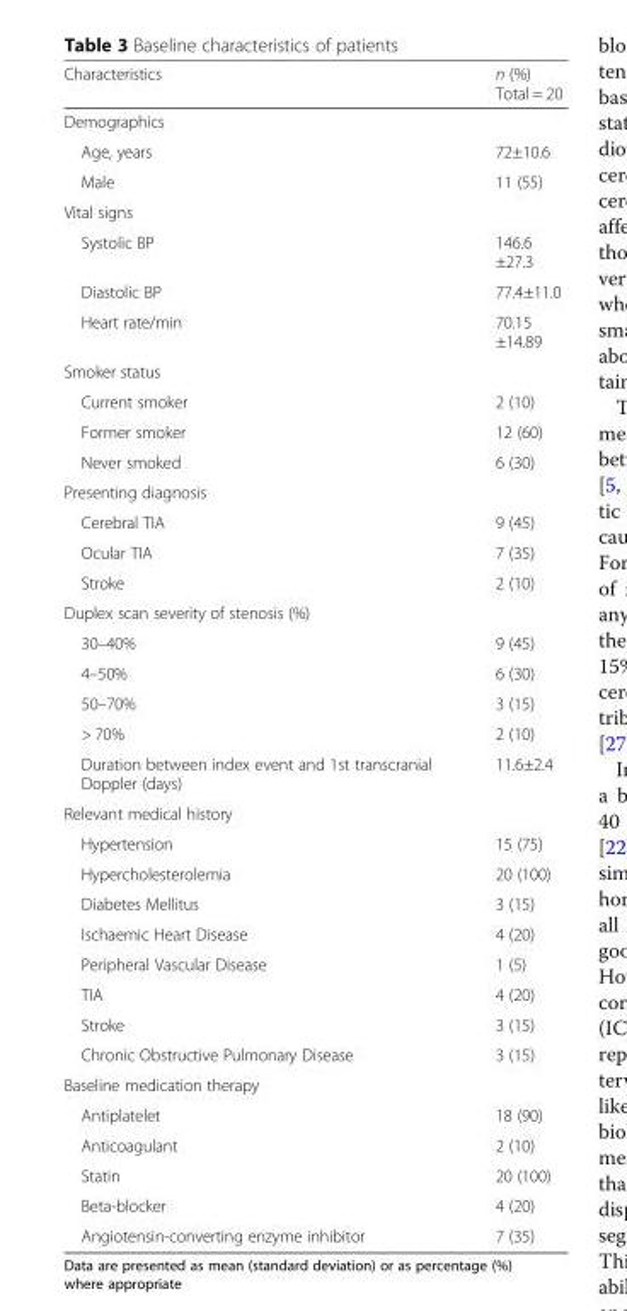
<table><thead><tr><td>Characteristics</td><td>n (%) Total = 20</td></tr></thead><tbody><tr><td colspan="2">Demographics</td></tr><tr><td>Age, years</td><td>72±10.6</td></tr><tr><td>Male</td><td>11 (55)</td></tr><tr><td colspan="2">Vital signs</td></tr><tr><td>Systolic BP</td><td>146.6 ±27.3</td></tr><tr><td>Diastolic BP</td><td>77.4±11.0</td></tr><tr><td>Heart rate/min</td><td>70.15 ±14.89</td></tr><tr><td colspan="2">Smoker status</td></tr><tr><td>Current smoker</td><td>2 (10)</td></tr><tr><td>Former smoker</td><td>12 (60)</td></tr><tr><td>Never smoked</td><td>6 (30)</td></tr><tr><td colspan="2">Presenting diagnosis</td></tr><tr><td>Cerebral TIA</td><td>9 (45)</td></tr><tr><td>Ocular TIA</td><td>7 (35)</td></tr><tr><td>Stroke</td><td>2 (10)</td></tr><tr><td colspan="2">Duplex scan severity of stenosis (%)</td></tr><tr><td>30–40%</td><td>9 (45)</td></tr><tr><td>4–50%</td><td>6 (30)</td></tr><tr><td>50–70%</td><td>3 (15)</td></tr><tr><td>&gt; 70%</td><td>2 (10)</td></tr><tr><td>Duration between index event and 1st transcranial Doppler (days)</td><td>11.6±2.4</td></tr><tr><td colspan="2">Relevant medical history</td></tr><tr><td>Hypertension</td><td>15 (75)</td></tr><tr><td>Hypercholesterolemia</td><td>20 (100)</td></tr><tr><td>Diabetes Mellitus</td><td>3 (15)</td></tr><tr><td>Ischaemic Heart Disease</td><td>4 (20)</td></tr><tr><td>Peripheral Vascular Disease</td><td>1 (5)</td></tr><tr><td>TIA</td><td>4 (20)</td></tr><tr><td>Stroke</td><td>3 (15)</td></tr><tr><td>Chronic Obstructive Pulmonary Disease</td><td>3 (15)</td></tr><tr><td colspan="2">Baseline medication therapy</td></tr><tr><td>Antiplatelet</td><td>18 (90)</td></tr><tr><td>Anticoagulant</td><td>2 (10)</td></tr><tr><td>Statin</td><td>20 (100)</td></tr><tr><td>Beta-blocker</td><td>4 (20)</td></tr><tr><td>Angiotensin-converting enzyme inhibitor</td><td>7 (35)</td></tr></tbody></table>